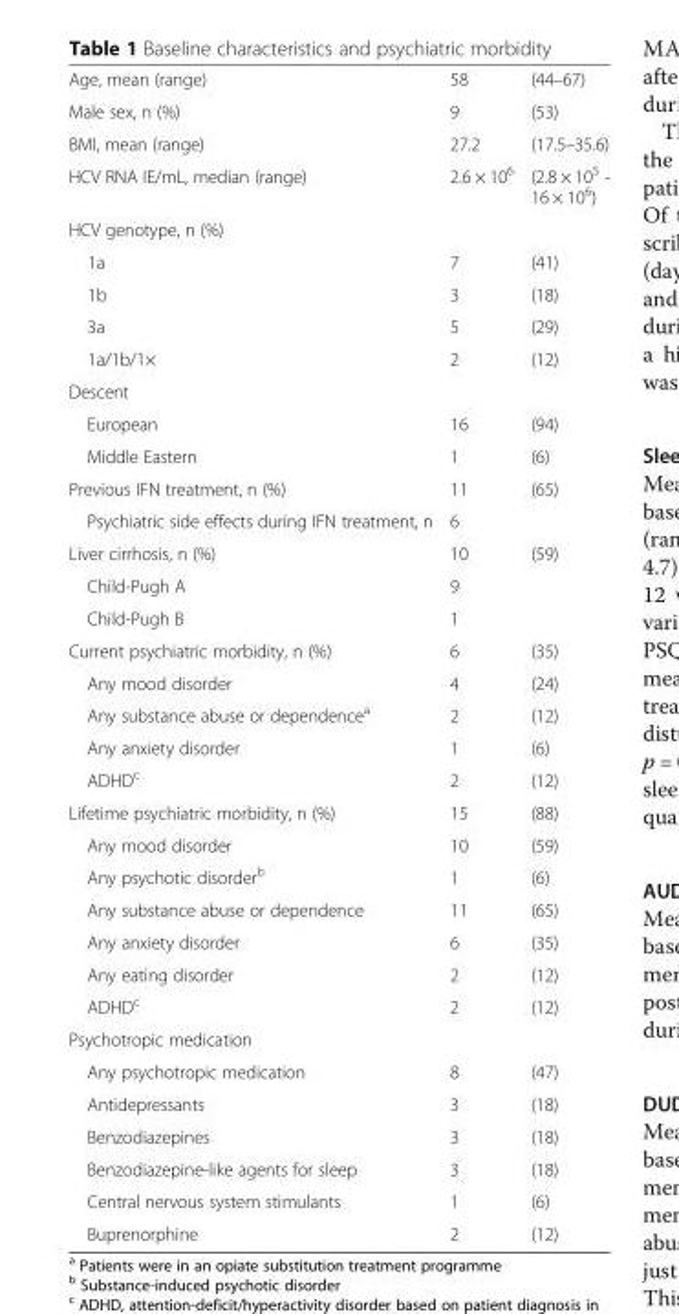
<table><tbody><tr><td>Age, mean (range)</td><td>58</td><td>(44–67)</td></tr><tr><td>Male sex, n (%)</td><td>9</td><td>(53)</td></tr><tr><td>BMI, mean (range)</td><td>27.2</td><td>(17.5–35.6)</td></tr><tr><td>HCV RNA IE/mL, median (range)</td><td>2.6 × 10<sup>6</sup></td><td>(2.8 × 10<sup>5</sup> - 16 × 10<sup>6</sup>)</td></tr><tr><td colspan="3">HCV genotype, n (%)</td></tr><tr><td>1a</td><td>7</td><td>(41)</td></tr><tr><td>1b</td><td>3</td><td>(18)</td></tr><tr><td>3a</td><td>5</td><td>(29)</td></tr><tr><td>1a/1b/1×</td><td>2</td><td>(12)</td></tr><tr><td colspan="3">Descent</td></tr><tr><td>European</td><td>16</td><td>(94)</td></tr><tr><td>Middle Eastern</td><td>1</td><td>(6)</td></tr><tr><td>Previous IFN treatment, n (%)</td><td>11</td><td>(65)</td></tr><tr><td>Psychiatric side effects during IFN treatment, n</td><td>6</td><td></td></tr><tr><td>Liver cirrhosis, n (%)</td><td>10</td><td>(59)</td></tr><tr><td>Child-Pugh A</td><td>9</td><td></td></tr><tr><td>Child-Pugh B</td><td>1</td><td></td></tr><tr><td>Current psychiatric morbidity, n (%)</td><td>6</td><td>(35)</td></tr><tr><td>Any mood disorder</td><td>4</td><td>(24)</td></tr><tr><td>Any substance abuse or dependence<sup>a</sup></td><td>2</td><td>(12)</td></tr><tr><td>Any anxiety disorder</td><td>1</td><td>(6)</td></tr><tr><td>ADHD<sup>c</sup></td><td>2</td><td>(12)</td></tr><tr><td>Lifetime psychiatric morbidity, n (%)</td><td>15</td><td>(88)</td></tr><tr><td>Any mood disorder</td><td>10</td><td>(59)</td></tr><tr><td>Any psychotic disorder<sup>b</sup></td><td>1</td><td>(6)</td></tr><tr><td>Any substance abuse or dependence</td><td>11</td><td>(65)</td></tr><tr><td>Any anxiety disorder</td><td>6</td><td>(35)</td></tr><tr><td>Any eating disorder</td><td>2</td><td>(12)</td></tr><tr><td>ADHD<sup>c</sup></td><td>2</td><td>(12)</td></tr><tr><td colspan="3">Psychotropic medication</td></tr><tr><td>Any psychotropic medication</td><td>8</td><td>(47)</td></tr><tr><td>Antidepressants</td><td>3</td><td>(18)</td></tr><tr><td>Benzodiazepines</td><td>3</td><td>(18)</td></tr><tr><td>Benzodiazepine-like agents for sleep</td><td>3</td><td>(18)</td></tr><tr><td>Central nervous system stimulants</td><td>1</td><td>(6)</td></tr><tr><td>Buprenorphine</td><td>2</td><td>(12)</td></tr></tbody></table>